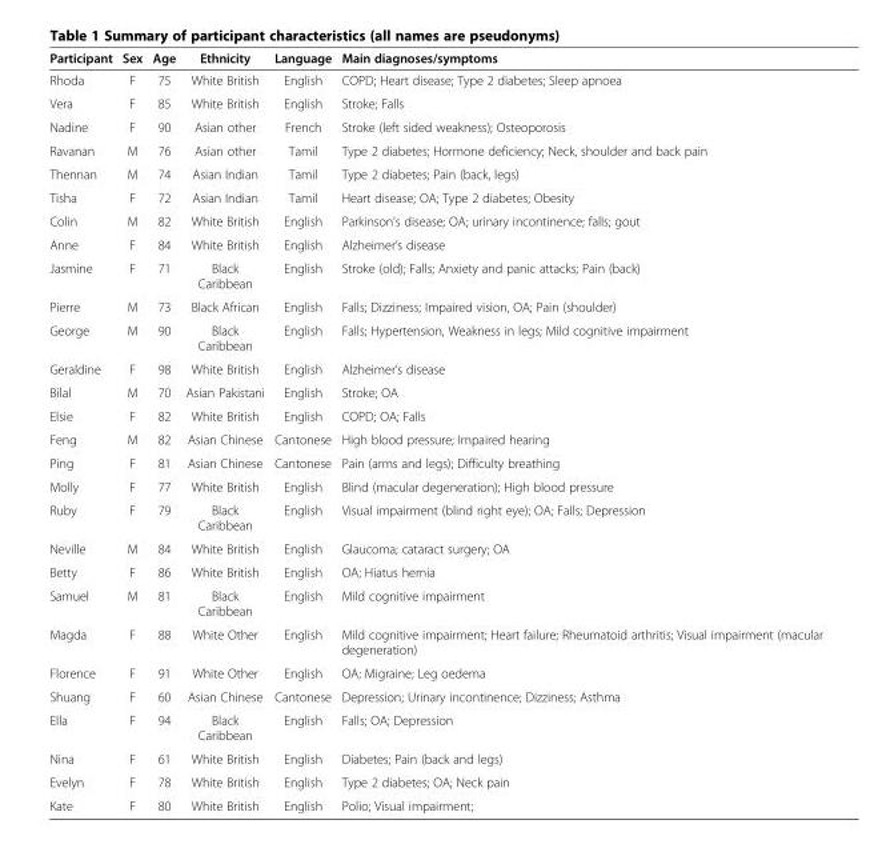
<table><thead><tr><td>Participant</td><td>Sex</td><td>Age</td><td>Ethnicity</td><td>Language</td><td>Main diagnoses/symptoms</td></tr></thead><tbody><tr><td>Rhoda</td><td>F</td><td>75</td><td>White British</td><td>English</td><td>COPD; Heart disease; Type 2 diabetes; Sleep apnoea</td></tr><tr><td>Vera</td><td>F</td><td>85</td><td>White British</td><td>English</td><td>Stroke; Falls</td></tr><tr><td>Nadine</td><td>F</td><td>90</td><td>Asian other</td><td>French</td><td>Stroke (left sided weakness); Osteoporosis</td></tr><tr><td>Ravanan</td><td>M</td><td>76</td><td>Asian other</td><td>Tamil</td><td>Type 2 diabetes; Hormone deficiency; Neck, shoulder and back pain</td></tr><tr><td>Thennan</td><td>M</td><td>74</td><td>Asian Indian</td><td>Tamil</td><td>Type 2 diabetes; Pain (back, legs)</td></tr><tr><td>Tisha</td><td>F</td><td>72</td><td>Asian Indian</td><td>Tamil</td><td>Heart disease; OA; Type 2 diabetes; Obesity</td></tr><tr><td>Colin</td><td>M</td><td>82</td><td>White British</td><td>English</td><td>Parkinson’s disease; OA; urinary incontinence; falls; gout</td></tr><tr><td>Anne</td><td>F</td><td>84</td><td>White British</td><td>English</td><td>Alzheimer’s disease</td></tr><tr><td>Jasmine</td><td>F</td><td>71</td><td>Black Caribbean</td><td>English</td><td>Stroke (old); Falls; Anxiety and panic attacks; Pain (back)</td></tr><tr><td>Pierre</td><td>M</td><td>73</td><td>Black African</td><td>English</td><td>Falls; Dizziness; Impaired vision, OA; Pain (shoulder)</td></tr><tr><td>George</td><td>M</td><td>90</td><td>Black Caribbean</td><td>English</td><td>Falls; Hypertension, Weakness in legs; Mild cognitive impairment</td></tr><tr><td>Geraldine</td><td>F</td><td>98</td><td>White British</td><td>English</td><td>Alzheimer’s disease</td></tr><tr><td>Bilal</td><td>M</td><td>70</td><td>Asian Pakistani</td><td>English</td><td>Stroke; OA</td></tr><tr><td>Elsie</td><td>F</td><td>82</td><td>White British</td><td>English</td><td>COPD; OA; Falls</td></tr><tr><td>Feng</td><td>M</td><td>82</td><td>Asian Chinese</td><td>Cantonese</td><td>High blood pressure; Impaired hearing</td></tr><tr><td>Ping</td><td>F</td><td>81</td><td>Asian Chinese</td><td>Cantonese</td><td>Pain (arms and legs); Difficulty breathing</td></tr><tr><td>Molly</td><td>F</td><td>77</td><td>White British</td><td>English</td><td>Blind (macular degeneration); High blood pressure</td></tr><tr><td>Ruby</td><td>F</td><td>79</td><td>Black Caribbean</td><td>English</td><td>Visual impairment (blind right eye); OA; Falls; Depression</td></tr><tr><td>Neville</td><td>M</td><td>84</td><td>White British</td><td>English</td><td>Glaucoma; cataract surgery; OA</td></tr><tr><td>Betty</td><td>F</td><td>86</td><td>White British</td><td>English</td><td>OA; Hiatus hernia</td></tr><tr><td>Samuel</td><td>M</td><td>81</td><td>Black Caribbean</td><td>English</td><td>Mild cognitive impairment</td></tr><tr><td>Magda</td><td>F</td><td>88</td><td>White Other</td><td>English</td><td>Mild cognitive impairment; Heart failure; Rheumatoid arthritis; Visual impairment (macular degeneration)</td></tr><tr><td>Florence</td><td>F</td><td>91</td><td>White Other</td><td>English</td><td>OA; Migraine; Leg oedema</td></tr><tr><td>Shuang</td><td>F</td><td>60</td><td>Asian Chinese</td><td>Cantonese</td><td>Depression; Urinary incontinence; Dizziness; Asthma</td></tr><tr><td>Ella</td><td>F</td><td>94</td><td>Black Caribbean</td><td>English</td><td>Falls; OA; Depression</td></tr><tr><td>Nina</td><td>F</td><td>61</td><td>White British</td><td>English</td><td>Diabetes; Pain (back and legs)</td></tr><tr><td>Evelyn</td><td>F</td><td>78</td><td>White British</td><td>English</td><td>Type 2 diabetes; OA; Neck pain</td></tr><tr><td>Kate</td><td>F</td><td>80</td><td>White British</td><td>English</td><td>Polio; Visual impairment;</td></tr></tbody></table>